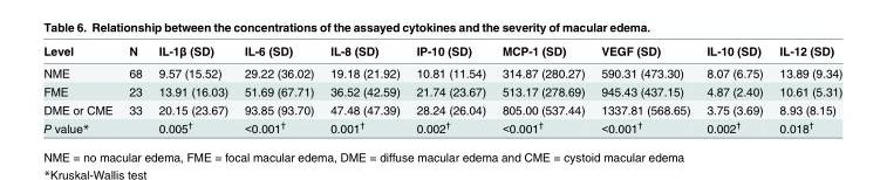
<table><thead><tr><td>Level</td><td>N</td><td>IL-1β (SD)</td><td>IL-6 (SD)</td><td>IL-8 (SD)</td><td>IP-10 (SD)</td><td>MCP-1 (SD)</td><td>VEGF (SD)</td><td>IL-10 (SD)</td><td>IL-12 (SD)</td></tr></thead><tbody><tr><td>NME</td><td>68</td><td>9.57 (15.52)</td><td>29.22 (36.02)</td><td>19.18 (21.92)</td><td>10.81 (11.54)</td><td>314.87 (280.27)</td><td>590.31 (473.30)</td><td>8.07 (6.75)</td><td>13.89 (9.34)</td></tr><tr><td>FME</td><td>23</td><td>13.91 (16.03)</td><td>51.69 (67.71)</td><td>36.52 (42.59)</td><td>21.74 (23.67)</td><td>513.17 (278.69)</td><td>945.43 (437.15)</td><td>4.87 (2.40)</td><td>10.61 (5.31)</td></tr><tr><td>DME or CME</td><td>33</td><td>20.15 (23.67)</td><td>93.85 (93.70)</td><td>47.48 (47.39)</td><td>28.24 (26.04)</td><td>805.00 (537.44)</td><td>1337.81 (568.65)</td><td>3.75 (3.69)</td><td>8.93 (8.15)</td></tr><tr><td>P value*</td><td></td><td>0.005<sup>†</sup></td><td>&lt;0.001<sup>†</sup></td><td>0.001<sup>†</sup></td><td>0.002<sup>†</sup></td><td>&lt;0.001<sup>†</sup></td><td>&lt;0.001<sup>†</sup></td><td>0.002<sup>†</sup></td><td>0.018<sup>†</sup></td></tr></tbody></table>